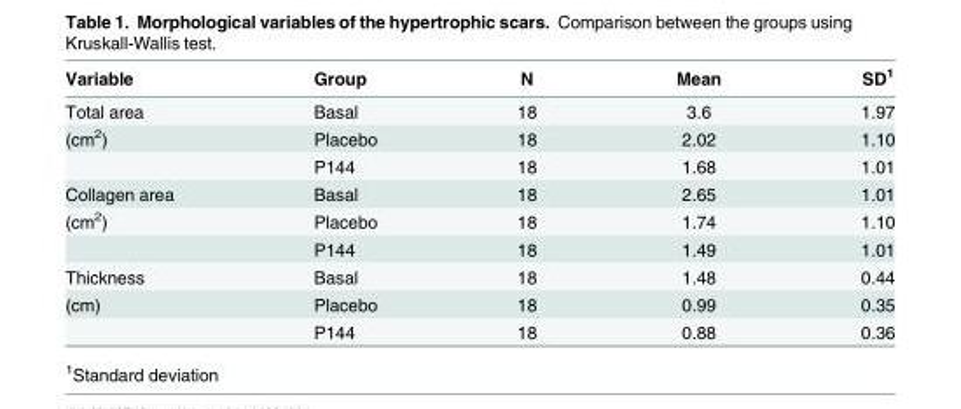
<table><thead><tr><td>Variable</td><td>Group</td><td>N</td><td>Mean</td><td>SD<sup>1</sup></td></tr></thead><tbody><tr><td>Total area</td><td>Basal</td><td>18</td><td>3.6</td><td>1.97</td></tr><tr><td rowspan="2">(cm<sup>2</sup>)</td><td>Placebo</td><td>18</td><td>2.02</td><td>1.10</td></tr><tr><td>P144</td><td>18</td><td>1.68</td><td>1.01</td></tr><tr><td>Collagen area</td><td>Basal</td><td>18</td><td>2.65</td><td>1.01</td></tr><tr><td rowspan="2">(cm<sup>2</sup>)</td><td>Placebo</td><td>18</td><td>1.74</td><td>1.10</td></tr><tr><td>P144</td><td>18</td><td>1.49</td><td>1.01</td></tr><tr><td>Thickness</td><td>Basal</td><td>18</td><td>1.48</td><td>0.44</td></tr><tr><td rowspan="2">(cm)</td><td>Placebo</td><td>18</td><td>0.99</td><td>0.35</td></tr><tr><td>P144</td><td>18</td><td>0.88</td><td>0.36</td></tr></tbody></table>